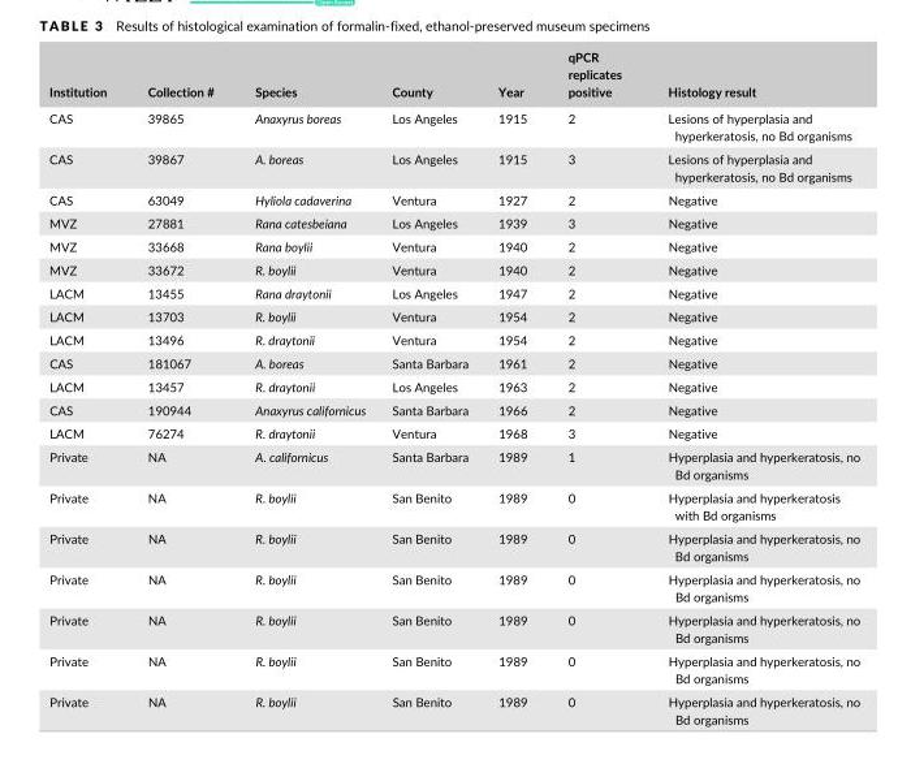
<table><thead><tr><td>Institution</td><td>Collection #</td><td>Species</td><td>County</td><td>Year</td><td>qPCR replicates positive</td><td>Histology result</td></tr></thead><tbody><tr><td>CAS</td><td>39865</td><td>Anaxyrus boreas</td><td>Los Angeles</td><td>1915</td><td>2</td><td>Lesions of hyperplasia and hyperkeratosis, no Bd organisms</td></tr><tr><td>CAS</td><td>39867</td><td>A. boreas</td><td>Los Angeles</td><td>1915</td><td>3</td><td>Lesions of hyperplasia and hyperkeratosis, no Bd organisms</td></tr><tr><td>CAS</td><td>63049</td><td>Hyliola cadaverina</td><td>Ventura</td><td>1927</td><td>2</td><td>Negative</td></tr><tr><td>MVZ</td><td>27881</td><td>Rana catesbeiana</td><td>Los Angeles</td><td>1939</td><td>3</td><td>Negative</td></tr><tr><td>MVZ</td><td>33668</td><td>Rana boylii</td><td>Ventura</td><td>1940</td><td>2</td><td>Negative</td></tr><tr><td>MVZ</td><td>33672</td><td>R. boylii</td><td>Ventura</td><td>1940</td><td>2</td><td>Negative</td></tr><tr><td>LACM</td><td>13455</td><td>Rana draytonii</td><td>Los Angeles</td><td>1947</td><td>2</td><td>Negative</td></tr><tr><td>LACM</td><td>13703</td><td>R. boylii</td><td>Ventura</td><td>1954</td><td>2</td><td>Negative</td></tr><tr><td>LACM</td><td>13496</td><td>R. draytonii</td><td>Ventura</td><td>1954</td><td>2</td><td>Negative</td></tr><tr><td>CAS</td><td>181067</td><td>A. boreas</td><td>Santa Barbara</td><td>1961</td><td>2</td><td>Negative</td></tr><tr><td>LACM</td><td>13457</td><td>R. draytonii</td><td>Los Angeles</td><td>1963</td><td>2</td><td>Negative</td></tr><tr><td>CAS</td><td>190944</td><td>Anaxyrus californicus</td><td>Santa Barbara</td><td>1966</td><td>2</td><td>Negative</td></tr><tr><td>LACM</td><td>76274</td><td>R. draytonii</td><td>Ventura</td><td>1968</td><td>3</td><td>Negative</td></tr><tr><td>Private</td><td>NA</td><td>A. californicus</td><td>Santa Barbara</td><td>1989</td><td>1</td><td>Hyperplasia and hyperkeratosis, no Bd organisms</td></tr><tr><td>Private</td><td>NA</td><td>R. boylii</td><td>San Benito</td><td>1989</td><td>0</td><td>Hyperplasia and hyperkeratosis with Bd organisms</td></tr><tr><td>Private</td><td>NA</td><td>R. boylii</td><td>San Benito</td><td>1989</td><td>0</td><td>Hyperplasia and hyperkeratosis, no Bd organisms</td></tr><tr><td>Private</td><td>NA</td><td>R. boylii</td><td>San Benito</td><td>1989</td><td>0</td><td>Hyperplasia and hyperkeratosis, no Bd organisms</td></tr><tr><td>Private</td><td>NA</td><td>R. boylii</td><td>San Benito</td><td>1989</td><td>0</td><td>Hyperplasia and hyperkeratosis, no Bd organisms</td></tr><tr><td>Private</td><td>NA</td><td>R. boylii</td><td>San Benito</td><td>1989</td><td>0</td><td>Hyperplasia and hyperkeratosis, no Bd organisms</td></tr><tr><td>Private</td><td>NA</td><td>R. boylii</td><td>San Benito</td><td>1989</td><td>0</td><td>Hyperplasia and hyperkeratosis, no Bd organisms</td></tr></tbody></table>